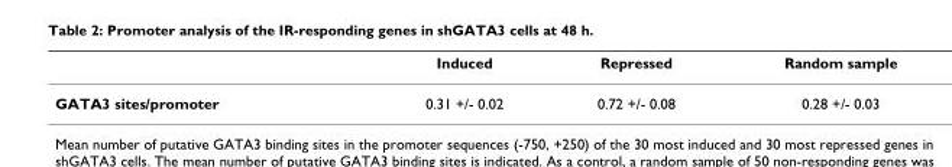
<table><thead><tr><td></td><td>Induced</td><td>Repressed</td><td>Random sample</td></tr></thead><tbody><tr><td>GATA3 sites/promoter</td><td>0.31 +/- 0.02</td><td>0.72 +/- 0.08</td><td>0.28 +/- 0.03</td></tr></tbody></table>